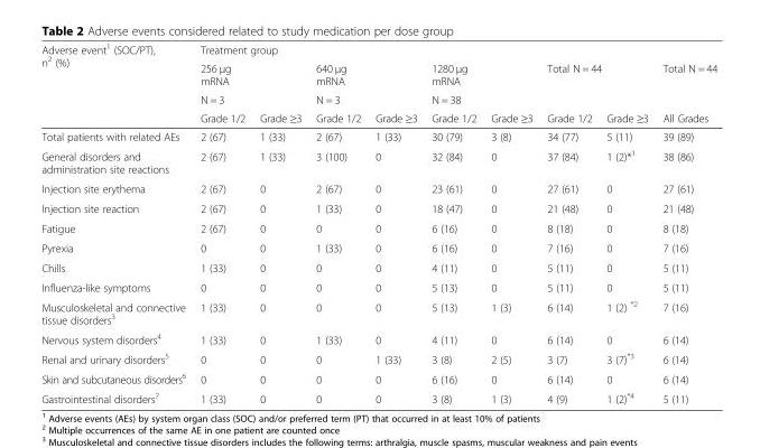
<table><thead><tr><td rowspan="4">Adverse event<sup>1</sup> (SOC/PT), n<sup>2</sup> (%)</td><td colspan="6">Treatment group</td><td></td><td></td><td rowspan="4">Total N = 44 All Grades</td></tr><tr><td rowspan="2" colspan="2">256 μg mRNA N = 3</td><td rowspan="2" colspan="2">640 μg mRNA N = 3</td><td rowspan="2" colspan="2">1280 μg mRNA N = 38</td><td rowspan="2" colspan="2">Total N = 44</td></tr><tr></tr><tr><td>Grade 1/2</td><td>Grade ≥3</td><td>Grade 1/2</td><td>Grade ≥3</td><td>Grade 1/2</td><td>Grade ≥3</td><td>Grade 1/2</td><td>Grade ≥3</td></tr></thead><tbody><tr><td>Total patients with related AEs</td><td>2 (67)</td><td>1 (33)</td><td>2 (67)</td><td>1 (33)</td><td>30 (79)</td><td>3 (8)</td><td>34 (77)</td><td>5 (11)</td><td>39 (89)</td></tr><tr><td>General disorders and administration site reactions</td><td>2 (67)</td><td>1 (33)</td><td>3 (100)</td><td>0</td><td>32 (84)</td><td>0</td><td>37 (84)</td><td>1 (2)*<sup>1</sup></td><td>38 (86)</td></tr><tr><td>Injection site erythema</td><td>2 (67)</td><td>0</td><td>2 (67)</td><td>0</td><td>23 (61)</td><td>0</td><td>27 (61)</td><td>0</td><td>27 (61)</td></tr><tr><td>Injection site reaction</td><td>2 (67)</td><td>0</td><td>1 (33)</td><td>0</td><td>18 (47)</td><td>0</td><td>21 (48)</td><td>0</td><td>21 (48)</td></tr><tr><td>Fatigue</td><td>2 (67)</td><td>0</td><td>0</td><td>0</td><td>6 (16)</td><td>0</td><td>8 (18)</td><td>0</td><td>8 (18)</td></tr><tr><td>Pyrexia</td><td>0</td><td>0</td><td>1 (33)</td><td>0</td><td>6 (16)</td><td>0</td><td>7 (16)</td><td>0</td><td>7 (16)</td></tr><tr><td>Chills</td><td>1 (33)</td><td>0</td><td>0</td><td>0</td><td>4 (11)</td><td>0</td><td>5 (11)</td><td>0</td><td>5 (11)</td></tr><tr><td>Influenza-like symptoms</td><td>0</td><td>0</td><td>0</td><td>0</td><td>5 (13)</td><td>0</td><td>5 (11)</td><td>0</td><td>5 (11)</td></tr><tr><td>Musculoskeletal and connective tissue disorders<sup>3</sup></td><td>1 (33)</td><td>0</td><td>0</td><td>0</td><td>5 (13)</td><td>1 (3)</td><td>6 (14)</td><td>1 (2) <sup>*2</sup></td><td>7 (16)</td></tr><tr><td>Nervous system disorders<sup>4</sup></td><td>1 (33)</td><td>0</td><td>1 (33)</td><td>0</td><td>4 (11)</td><td>0</td><td>6 (14)</td><td>0</td><td>6 (14)</td></tr><tr><td>Renal and urinary disorders<sup>5</sup></td><td>0</td><td>0</td><td>0</td><td>1 (33)</td><td>3 (8)</td><td>2 (5)</td><td>3 (7)</td><td>3 (7)<sup>*3</sup></td><td>6 (14)</td></tr><tr><td>Skin and subcutaneous disorders<sup>6</sup></td><td>0</td><td>0</td><td>0</td><td>0</td><td>6 (16)</td><td>0</td><td>6 (14)</td><td>0</td><td>6 (14)</td></tr><tr><td>Gastrointestinal disorders<sup>7</sup></td><td>1 (33)</td><td>0</td><td>0</td><td>0</td><td>3 (8)</td><td>1 (3)</td><td>4 (9)</td><td>1 (2)<sup>*4</sup></td><td>5 (11)</td></tr></tbody></table>